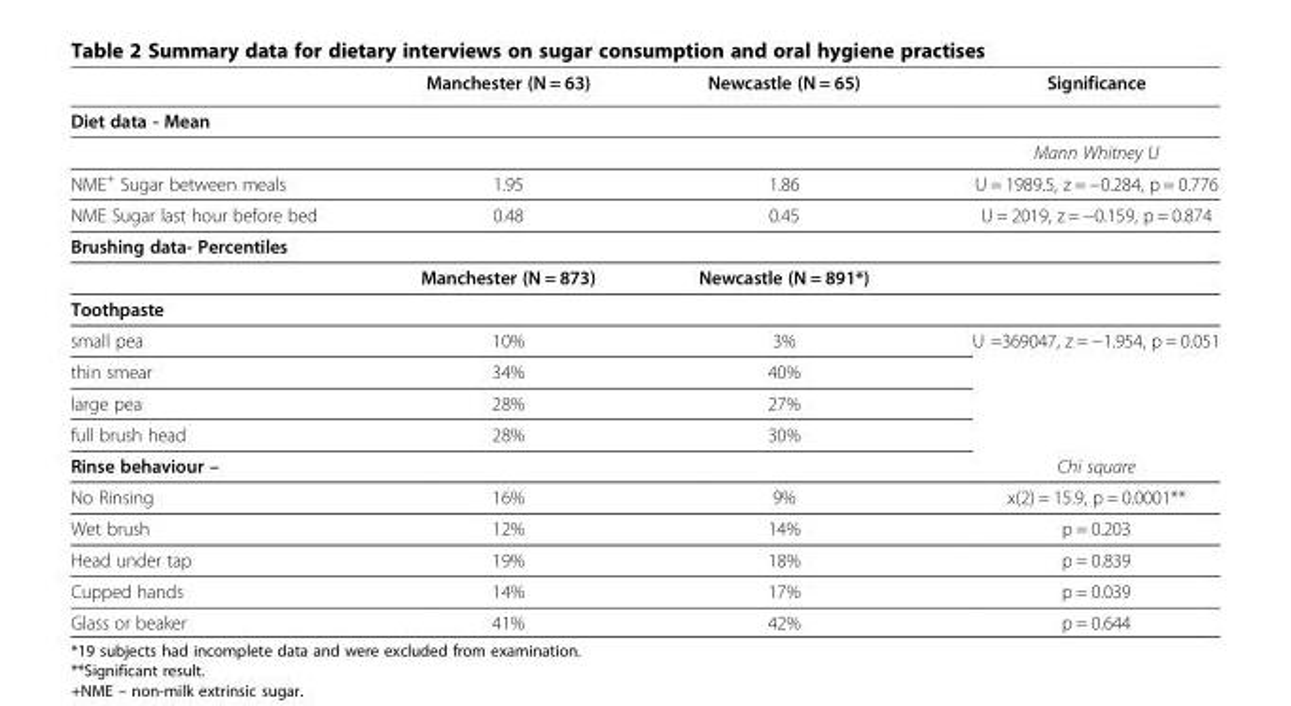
<table><thead><tr><td></td><td>Manchester (N = 63)</td><td>Newcastle (N = 65)</td><td>Significance</td></tr></thead><tbody><tr><td colspan="4">Diet data - Mean</td></tr><tr><td></td><td></td><td></td><td>Mann Whitney U</td></tr><tr><td>NME<sup>+</sup> Sugar between meals</td><td>1.95</td><td>1.86</td><td>U = 1989.5, z = −0.284, p = 0.776</td></tr><tr><td>NME Sugar last hour before bed</td><td>0.48</td><td>0.45</td><td>U = 2019, z = −0.159, p = 0.874</td></tr><tr><td colspan="4">Brushing data- Percentiles</td></tr><tr><td></td><td>Manchester (N = 873)</td><td>Newcastle (N = 891*)</td><td></td></tr><tr><td colspan="4">Toothpaste</td></tr><tr><td>small pea</td><td>10%</td><td>3%</td><td>U =369047, z = −1.954, p = 0.051</td></tr><tr><td>thin smear</td><td>34%</td><td>40%</td><td></td></tr><tr><td>large pea</td><td>28%</td><td>27%</td><td></td></tr><tr><td>full brush head</td><td>28%</td><td>30%</td><td></td></tr><tr><td>Rinse behaviour –</td><td></td><td></td><td>Chi square</td></tr><tr><td>No Rinsing</td><td>16%</td><td>9%</td><td>x(2) = 15.9, p = 0.0001**</td></tr><tr><td>Wet brush</td><td>12%</td><td>14%</td><td>p = 0.203</td></tr><tr><td>Head under tap</td><td>19%</td><td>18%</td><td>p = 0.839</td></tr><tr><td>Cupped hands</td><td>14%</td><td>17%</td><td>p = 0.039</td></tr><tr><td>Glass or beaker</td><td>41%</td><td>42%</td><td>p = 0.644</td></tr></tbody></table>